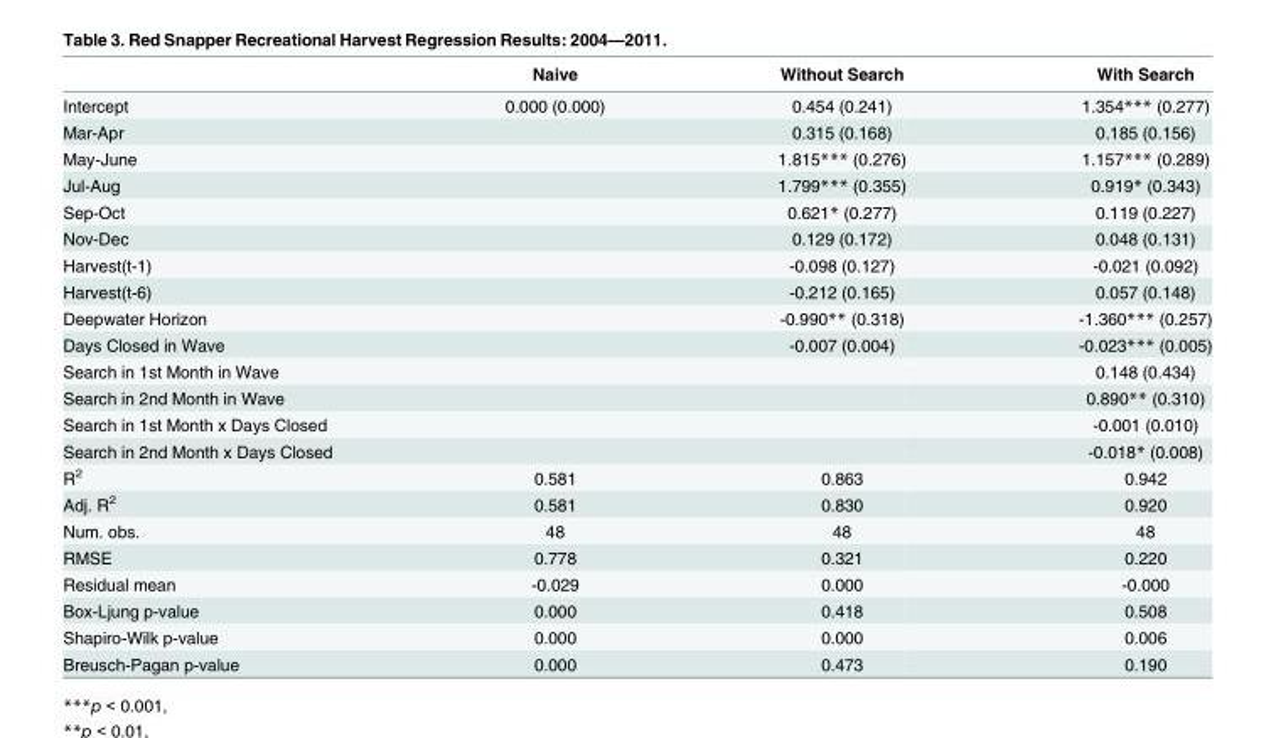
<table><thead><tr><td></td><td>Naive</td><td>Without Search</td><td>With Search</td></tr></thead><tbody><tr><td>Intercept</td><td>0.000 (0.000)</td><td>0.454 (0.241)</td><td>1.354*** (0.277)</td></tr><tr><td>Mar-Apr</td><td></td><td>0.315 (0.168)</td><td>0.185 (0.156)</td></tr><tr><td>May-June</td><td></td><td>1.815*** (0.276)</td><td>1.157*** (0.289)</td></tr><tr><td>Jul-Aug</td><td></td><td>1.799*** (0.355)</td><td>0.919* (0.343)</td></tr><tr><td>Sep-Oct</td><td></td><td>0.621* (0.277)</td><td>0.119 (0.227)</td></tr><tr><td>Nov-Dec</td><td></td><td>0.129 (0.172)</td><td>0.048 (0.131)</td></tr><tr><td>Harvest(t-1)</td><td></td><td>-0.098 (0.127)</td><td>-0.021 (0.092)</td></tr><tr><td>Harvest(t-6)</td><td></td><td>-0.212 (0.165)</td><td>0.057 (0.148)</td></tr><tr><td>Deepwater Horizon</td><td></td><td>-0.990** (0.318)</td><td>-1.360*** (0.257)</td></tr><tr><td>Days Closed in Wave</td><td></td><td>-0.007 (0.004)</td><td>-0.023*** (0.005)</td></tr><tr><td>Search in 1st Month in Wave</td><td></td><td></td><td>0.148 (0.434)</td></tr><tr><td>Search in 2nd Month in Wave</td><td></td><td></td><td>0.890** (0.310)</td></tr><tr><td>Search in 1st Month x Days Closed</td><td></td><td></td><td>-0.001 (0.010)</td></tr><tr><td>Search in 2nd Month x Days Closed</td><td></td><td></td><td>-0.018* (0.008)</td></tr><tr><td>R<sup>2</sup></td><td>0.581</td><td>0.863</td><td>0.942</td></tr><tr><td>Adj. R<sup>2</sup></td><td>0.581</td><td>0.830</td><td>0.920</td></tr><tr><td>Num. obs.</td><td>48</td><td>48</td><td>48</td></tr><tr><td>RMSE</td><td>0.778</td><td>0.321</td><td>0.220</td></tr><tr><td>Residual mean</td><td>-0.029</td><td>0.000</td><td>-0.000</td></tr><tr><td>Box-Ljung p-value</td><td>0.000</td><td>0.418</td><td>0.508</td></tr><tr><td>Shapiro-Wilk p-value</td><td>0.000</td><td>0.000</td><td>0.006</td></tr><tr><td>Breusch-Pagan p-value</td><td>0.000</td><td>0.473</td><td>0.190</td></tr></tbody></table>